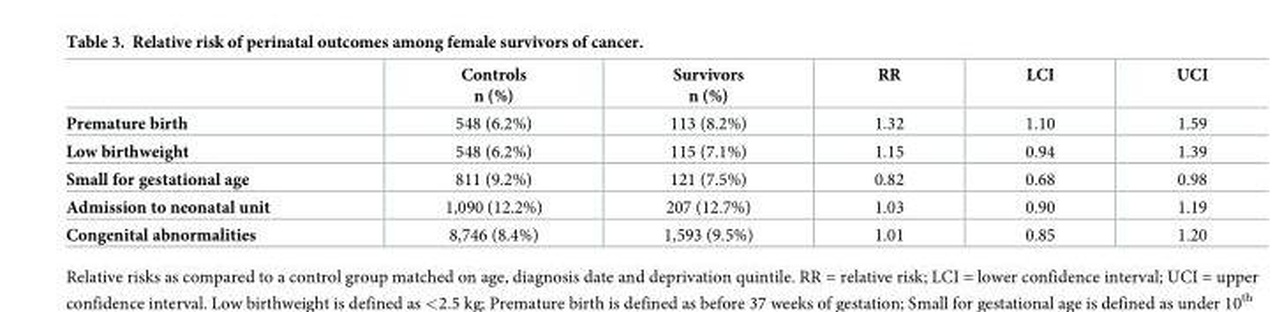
<table><thead><tr><td></td><td>Controls n (%)</td><td>Survivors n (%)</td><td>RR</td><td>LCI</td><td>UCI</td></tr></thead><tbody><tr><td>Premature birth</td><td>548 (6.2%)</td><td>113 (8.2%)</td><td>1.32</td><td>1.10</td><td>1.59</td></tr><tr><td>Low birthweight</td><td>548 (6.2%)</td><td>115 (7.1%)</td><td>1.15</td><td>0.94</td><td>1.39</td></tr><tr><td>Small for gestational age</td><td>811 (9.2%)</td><td>121 (7.5%)</td><td>0.82</td><td>0.68</td><td>0.98</td></tr><tr><td>Admission to neonatal unit</td><td>1,090 (12.2%)</td><td>207 (12.7%)</td><td>1.03</td><td>0.90</td><td>1.19</td></tr><tr><td>Congenital abnormalities</td><td>8,746 (8.4%)</td><td>1,593 (9.5%)</td><td>1.01</td><td>0.85</td><td>1.20</td></tr></tbody></table>